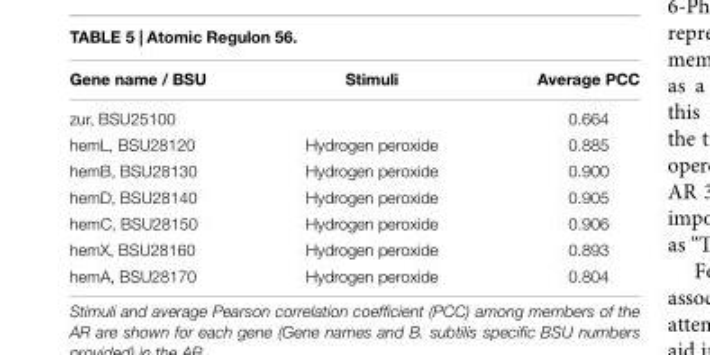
<table><thead><tr><td>Gene name / BSU</td><td>Stimuli</td><td>Average PCC</td></tr></thead><tbody><tr><td>zur, BSU25100</td><td></td><td>0.664</td></tr><tr><td>hemL, BSU28120</td><td>Hydrogen peroxide</td><td>0.885</td></tr><tr><td>hemB, BSU28130</td><td>Hydrogen peroxide</td><td>0.900</td></tr><tr><td>hemD, BSU28140</td><td>Hydrogen peroxide</td><td>0.905</td></tr><tr><td>hemC, BSU28150</td><td>Hydrogen peroxide</td><td>0.906</td></tr><tr><td>hemX, BSU28160</td><td>Hydrogen peroxide</td><td>0.893</td></tr><tr><td>hemA, BSU28170</td><td>Hydrogen peroxide</td><td>0.804</td></tr></tbody></table>